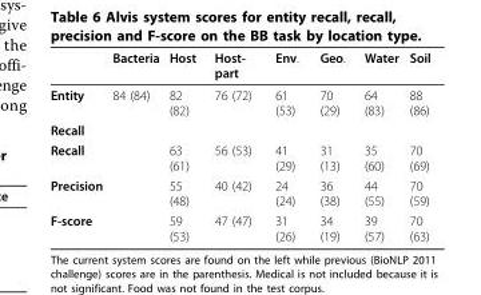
<table><thead><tr><td></td><td>Bacteria</td><td>Host</td><td>Host- part</td><td>Env.</td><td>Geo.</td><td>Water</td><td>Soil</td></tr></thead><tbody><tr><td>Entity</td><td>84 (84)</td><td>82 (82)</td><td>76 (72)</td><td>61 (53)</td><td>70 (29)</td><td>64 (83)</td><td>88 (86)</td></tr><tr><td colspan="8">Recall</td></tr><tr><td>Recall</td><td></td><td>63 (61)</td><td>56 (53)</td><td>41 (29)</td><td>31 (13)</td><td>35 (60)</td><td>70 (69)</td></tr><tr><td>Precision</td><td></td><td>55 (48)</td><td>40 (42)</td><td>24 (24)</td><td>36 (38)</td><td>44 (55)</td><td>70 (59)</td></tr><tr><td>F-score</td><td></td><td>59 (53)</td><td>47 (47)</td><td>31 (26)</td><td>34 (19)</td><td>39 (57)</td><td>70 (63)</td></tr></tbody></table>